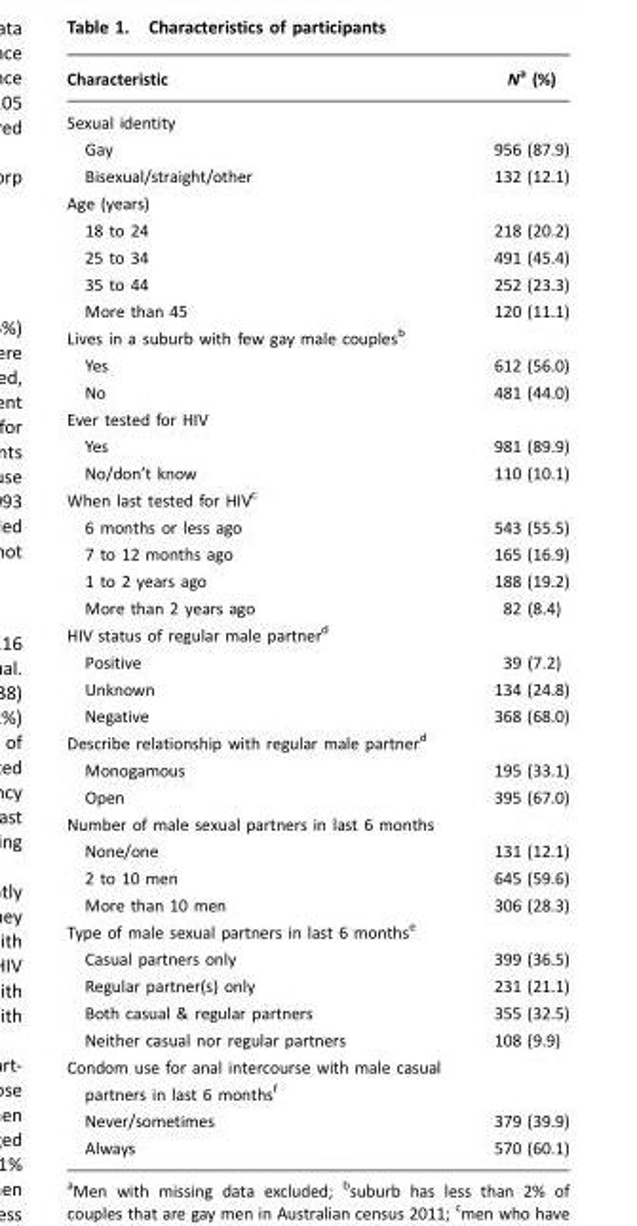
<table><thead><tr><td>Characteristic</td><td>Na (%)</td></tr></thead><tbody><tr><td colspan="2">Sexual identity</td></tr><tr><td>Gay</td><td>956 (87.9)</td></tr><tr><td>Bisexual/straight/other</td><td>132 (12.1)</td></tr><tr><td colspan="2">Age (years)</td></tr><tr><td>18 to 24</td><td>218 (20.2)</td></tr><tr><td>25 to 34</td><td>491 (45.4)</td></tr><tr><td>35 to 44</td><td>252 (23.3)</td></tr><tr><td>More than 45</td><td>120 (11.1)</td></tr><tr><td colspan="2">Lives in a suburb with few gay male couples<sup>b</sup></td></tr><tr><td>Yes</td><td>612 (56.0)</td></tr><tr><td>No</td><td>481 (44.0)</td></tr><tr><td colspan="2">Ever tested for HIV</td></tr><tr><td>Yes</td><td>981 (89.9)</td></tr><tr><td>No/don’t know</td><td>110 (10.1)</td></tr><tr><td colspan="2">When last tested for HIV<sup>c</sup></td></tr><tr><td>6 months or less ago</td><td>543 (55.5)</td></tr><tr><td>7 to 12 months ago</td><td>165 (16.9)</td></tr><tr><td>1 to 2 years ago</td><td>188 (19.2)</td></tr><tr><td>More than 2 years ago</td><td>82 (8.4)</td></tr><tr><td colspan="2">HIV status of regular male partner<sup>d</sup></td></tr><tr><td>Positive</td><td>39 (7.2)</td></tr><tr><td>Unknown</td><td>134 (24.8)</td></tr><tr><td>Negative</td><td>368 (68.0)</td></tr><tr><td colspan="2">Describe relationship with regular male partner<sup>d</sup></td></tr><tr><td>Monogamous</td><td>195 (33.1)</td></tr><tr><td>Open</td><td>395 (67.0)</td></tr><tr><td colspan="2">Number of male sexual partners in last 6 months</td></tr><tr><td>None/one</td><td>131 (12.1)</td></tr><tr><td>2 to 10 men</td><td>645 (59.6)</td></tr><tr><td>More than 10 men</td><td>306 (28.3)</td></tr><tr><td colspan="2">Type of male sexual partners in last 6 months<sup>e</sup></td></tr><tr><td>Casual partners only</td><td>399 (36.5)</td></tr><tr><td>Regular partner(s) only</td><td>231 (21.1)</td></tr><tr><td>Both casual &amp; regular partners</td><td>355 (32.5)</td></tr><tr><td>Neither casual nor regular partners</td><td>108 (9.9)</td></tr><tr><td colspan="2">Condom use for anal intercourse with male casual partners in last 6 months<sup>f</sup></td></tr><tr><td>Never/sometimes</td><td>379 (39.9)</td></tr><tr><td>Always</td><td>570 (60.1)</td></tr></tbody></table>